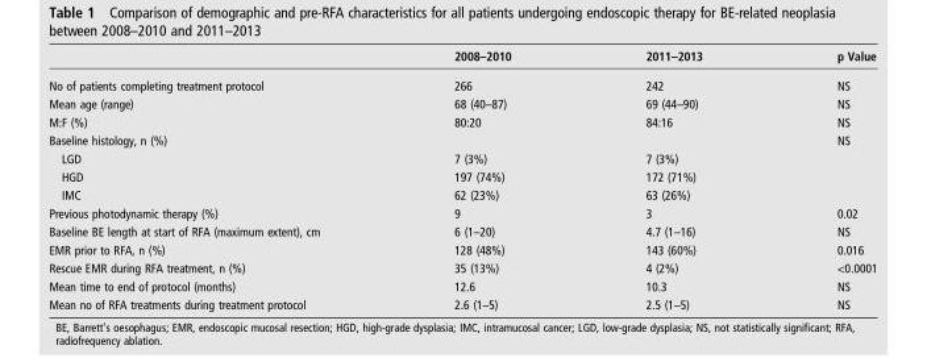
<table><thead><tr><td></td><td>2008–2010</td><td>2011–2013</td><td>p Value</td></tr></thead><tbody><tr><td>No of patients completing treatment protocol</td><td>266</td><td>242</td><td>NS</td></tr><tr><td>Mean age (range)</td><td>68 (40–87)</td><td>69 (44–90)</td><td>NS</td></tr><tr><td>M:F (%)</td><td>80:20</td><td>84:16</td><td>NS</td></tr><tr><td>Baseline histology, n (%)</td><td></td><td></td><td>NS</td></tr><tr><td>LGD</td><td>7 (3%)</td><td>7 (3%)</td><td></td></tr><tr><td>HGD</td><td>197 (74%)</td><td>172 (71%)</td><td></td></tr><tr><td>IMC</td><td>62 (23%)</td><td>63 (26%)</td><td></td></tr><tr><td>Previous photodynamic therapy (%)</td><td>9</td><td>3</td><td>0.02</td></tr><tr><td>Baseline BE length at start of RFA (maximum extent), cm</td><td>6 (1–20)</td><td>4.7 (1–16)</td><td>NS</td></tr><tr><td>EMR prior to RFA, n (%)</td><td>128 (48%)</td><td>143 (60%)</td><td>0.016</td></tr><tr><td>Rescue EMR during RFA treatment, n (%)</td><td>35 (13%)</td><td>4 (2%)</td><td>&lt;0.0001</td></tr><tr><td>Mean time to end of protocol (months)</td><td>12.6</td><td>10.3</td><td>NS</td></tr><tr><td>Mean no of RFA treatments during treatment protocol</td><td>2.6 (1–5)</td><td>2.5 (1–5)</td><td>NS</td></tr></tbody></table>